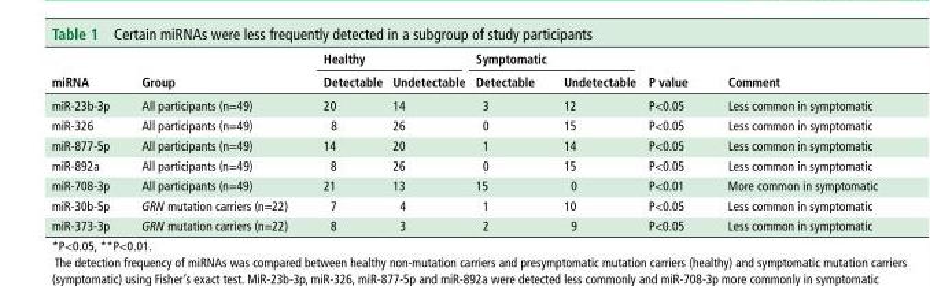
<table><thead><tr><td rowspan="2">mirnA</td><td rowspan="2">Group</td><td colspan="2">healthy</td><td colspan="2">symptomatic</td><td rowspan="2">P value</td><td rowspan="2">Comment</td></tr><tr><td>detectable</td><td>undetectable</td><td>detectable</td><td>undetectable</td></tr></thead><tbody><tr><td>miR-23b-3p</td><td>All participants (n=49)</td><td>20</td><td>14</td><td>3</td><td>12</td><td>P&lt;0.05</td><td>Less common in symptomatic</td></tr><tr><td>miR-326</td><td>All participants (n=49)</td><td>8</td><td>26</td><td>0</td><td>15</td><td>P&lt;0.05</td><td>Less common in symptomatic</td></tr><tr><td>miR-877-5p</td><td>All participants (n=49)</td><td>14</td><td>20</td><td>1</td><td>14</td><td>P&lt;0.05</td><td>Less common in symptomatic</td></tr><tr><td>miR-892a</td><td>All participants (n=49)</td><td>8</td><td>26</td><td>0</td><td>15</td><td>P&lt;0.05</td><td>Less common in symptomatic</td></tr><tr><td>miR-708-3p</td><td>All participants (n=49)</td><td>21</td><td>13</td><td>15</td><td>0</td><td>P&lt;0.01</td><td>More common in symptomatic</td></tr><tr><td>miR-30b-5p</td><td>GRN mutation carriers (n=22)</td><td>7</td><td>4</td><td>1</td><td>10</td><td>P&lt;0.05</td><td>Less common in symptomatic</td></tr><tr><td>miR-373-3p</td><td>GRN mutation carriers (n=22)</td><td>8</td><td>3</td><td>2</td><td>9</td><td>P&lt;0.05</td><td>Less common in symptomatic</td></tr></tbody></table>